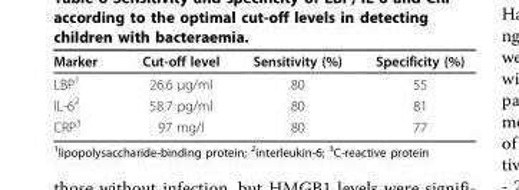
<table><thead><tr><td>Marker</td><td>Cut-off level</td><td>Sensitivity (%)</td><td>Specificity (%)</td></tr></thead><tbody><tr><td>LBP<sup>1</sup></td><td>26.6 μg/ml</td><td>80</td><td>55</td></tr><tr><td>IL-6<sup>2</sup></td><td>58.7 pg/ml</td><td>80</td><td>81</td></tr><tr><td>CRP<sup>3</sup></td><td>97 mg/l</td><td>80</td><td>77</td></tr></tbody></table>